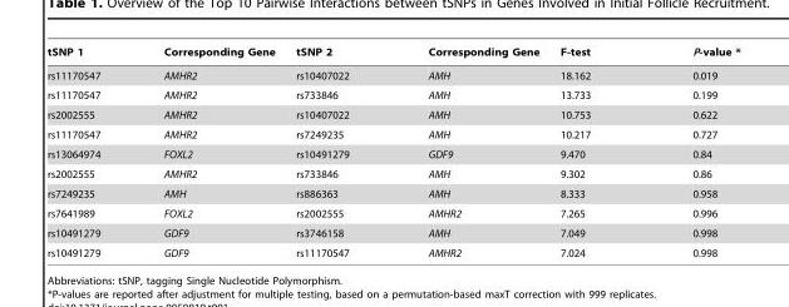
<table><thead><tr><td>tSNP 1</td><td>Corresponding Gene</td><td>tSNP 2</td><td>Corresponding Gene</td><td>F-test</td><td>P-value *</td></tr></thead><tbody><tr><td>rs11170547</td><td>AMHR2</td><td>rs10407022</td><td>AMH</td><td>18.162</td><td>0.019</td></tr><tr><td>rs11170547</td><td>AMHR2</td><td>rs733846</td><td>AMH</td><td>13.733</td><td>0.199</td></tr><tr><td>rs2002555</td><td>AMHR2</td><td>rs10407022</td><td>AMH</td><td>10.753</td><td>0.622</td></tr><tr><td>rs11170547</td><td>AMHR2</td><td>rs7249235</td><td>AMH</td><td>10.217</td><td>0.727</td></tr><tr><td>rs13064974</td><td>FOXL2</td><td>rs10491279</td><td>GDF9</td><td>9.470</td><td>0.84</td></tr><tr><td>rs2002555</td><td>AMHR2</td><td>rs733846</td><td>AMH</td><td>9.302</td><td>0.86</td></tr><tr><td>rs7249235</td><td>AMH</td><td>rs886363</td><td>AMH</td><td>8.333</td><td>0.958</td></tr><tr><td>rs7641989</td><td>FOXL2</td><td>rs2002555</td><td>AMHR2</td><td>7.265</td><td>0.996</td></tr><tr><td>rs10491279</td><td>GDF9</td><td>rs3746158</td><td>AMH</td><td>7.049</td><td>0.998</td></tr><tr><td>rs10491279</td><td>GDF9</td><td>rs11170547</td><td>AMHR2</td><td>7.024</td><td>0.998</td></tr></tbody></table>